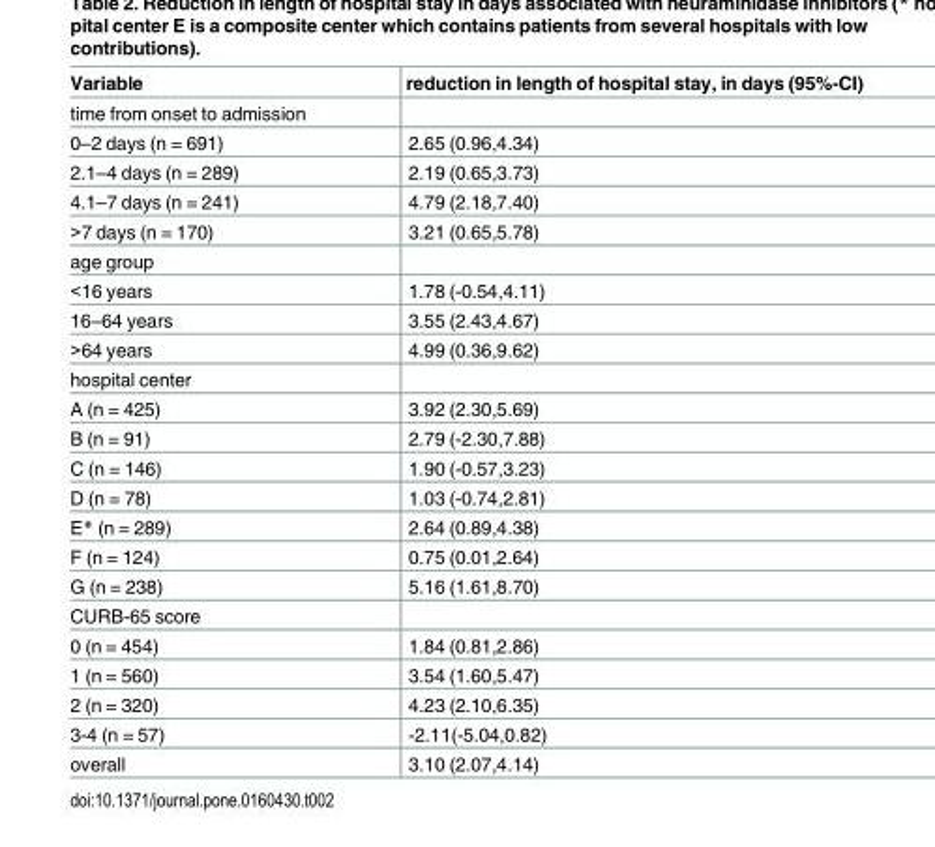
<table><thead><tr><td>Variable</td><td>reduction in length of hospital stay, in days (95%-CI)</td></tr></thead><tbody><tr><td colspan="2">time from onset to admission</td></tr><tr><td>0–2 days (n = 691)</td><td>2.65 (0.96,4.34)</td></tr><tr><td>2.1–4 days (n = 289)</td><td>2.19 (0.65,3.73)</td></tr><tr><td>4.1–7 days (n = 241)</td><td>4.79 (2.18,7.40)</td></tr><tr><td>&gt;7 days (n = 170)</td><td>3.21 (0.65,5.78)</td></tr><tr><td colspan="2">age group</td></tr><tr><td>&lt;16 years</td><td>1.78 (-0.54,4.11)</td></tr><tr><td>16–64 years</td><td>3.55 (2.43,4.67)</td></tr><tr><td>&gt;64 years</td><td>4.99 (0.36,9.62)</td></tr><tr><td colspan="2">hospital center</td></tr><tr><td>A (n = 425)</td><td>3.92 (2.30,5.69)</td></tr><tr><td>B (n = 91)</td><td>2.79 (-2.30,7.88)</td></tr><tr><td>C (n = 146)</td><td>1.90 (-0.57,3.23)</td></tr><tr><td>D (n = 78)</td><td>1.03 (-0.74,2.81)</td></tr><tr><td>E* (n = 289)</td><td>2.64 (0.89,4.38)</td></tr><tr><td>F (n = 124)</td><td>0.75 (0.01,2.64)</td></tr><tr><td>G (n = 238)</td><td>5.16 (1.61,8.70)</td></tr><tr><td colspan="2">CURB-65 score</td></tr><tr><td>0 (n = 454)</td><td>1.84 (0.81,2.86)</td></tr><tr><td>1 (n = 560)</td><td>3.54 (1.60,5.47)</td></tr><tr><td>2 (n = 320)</td><td>4.23 (2.10,6.35)</td></tr><tr><td>3-4 (n = 57)</td><td>-2.11(-5.04,0.82)</td></tr><tr><td>overall</td><td>3.10 (2.07,4.14)</td></tr></tbody></table>